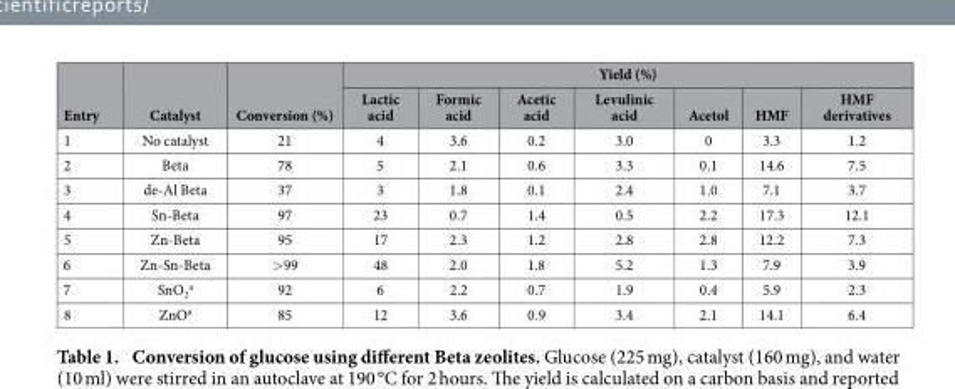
<table><thead><tr><td rowspan="2">Entry</td><td rowspan="2">Catalyst</td><td rowspan="2">Conversion (%)</td><td colspan="7">Yield (%)</td></tr><tr><td>Lactic acid</td><td>Formic acid</td><td>Acetic acid</td><td>Levulinic acid</td><td>Acetol</td><td>HMF</td><td>HMF derivatives</td></tr></thead><tbody><tr><td>1</td><td>No catalyst</td><td>21</td><td>4</td><td>3.6</td><td>0.2</td><td>3.0</td><td>0</td><td>3.3</td><td>1.2</td></tr><tr><td>2</td><td>Beta</td><td>78</td><td>5</td><td>2.1</td><td>0.6</td><td>3.3</td><td>0.1</td><td>14.6</td><td>7.5</td></tr><tr><td>3</td><td>de-Al Beta</td><td>37</td><td>3</td><td>1.8</td><td>0.1</td><td>2.4</td><td>1.0</td><td>7.1</td><td>3.7</td></tr><tr><td>4</td><td>Sn-Beta</td><td>97</td><td>23</td><td>0.7</td><td>1.4</td><td>0.5</td><td>2.2</td><td>17.3</td><td>12.1</td></tr><tr><td>5</td><td>Zn-Beta</td><td>95</td><td>17</td><td>2.3</td><td>1.2</td><td>2.8</td><td>2.8</td><td>12.2</td><td>7.3</td></tr><tr><td>6</td><td>Zn-Sn-Beta</td><td>&gt; 99</td><td>48</td><td>2.0</td><td>1.8</td><td>5.2</td><td>1.3</td><td>7.9</td><td>3.9</td></tr><tr><td>7</td><td>SnO<sub>2</sub> <sup>a</sup></td><td>92</td><td>6</td><td>2.2</td><td>0.7</td><td>1.9</td><td>0.4</td><td>5.9</td><td>2.3</td></tr><tr><td>8</td><td>ZnO<sup>a</sup></td><td>85</td><td>12</td><td>3.6</td><td>0.9</td><td>3.4</td><td>2.1</td><td>14.1</td><td>6.4</td></tr></tbody></table>